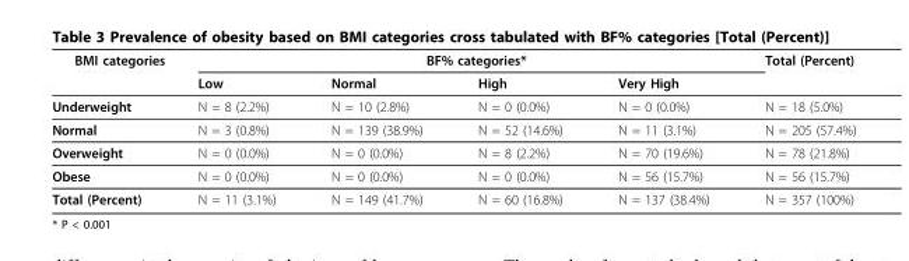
<table><thead><tr><td rowspan="2">BMI categories</td><td colspan="4">BF% categories*</td><td rowspan="2">Total (Percent)</td></tr><tr><td>Low</td><td>Normal</td><td>High</td><td>Very High</td></tr></thead><tbody><tr><td>Underweight</td><td>N = 8 (2.2%)</td><td>N = 10 (2.8%)</td><td>N = 0 (0.0%)</td><td>N = 0 (0.0%)</td><td>N = 18 (5.0%)</td></tr><tr><td>Normal</td><td>N = 3 (0.8%)</td><td>N = 139 (38.9%)</td><td>N = 52 (14.6%)</td><td>N = 11 (3.1%)</td><td>N = 205 (57.4%)</td></tr><tr><td>Overweight</td><td>N = 0 (0.0%)</td><td>N = 0 (0.0%)</td><td>N = 8 (2.2%)</td><td>N = 70 (19.6%)</td><td>N = 78 (21.8%)</td></tr><tr><td>Obese</td><td>N = 0 (0.0%)</td><td>N = 0 (0.0%)</td><td>N = 0 (0.0%)</td><td>N = 56 (15.7%)</td><td>N = 56 (15.7%)</td></tr><tr><td>Total (Percent)</td><td>N = 11 (3.1%)</td><td>N = 149 (41.7%)</td><td>N = 60 (16.8%)</td><td>N = 137 (38.4%)</td><td>N = 357 (100%)</td></tr></tbody></table>